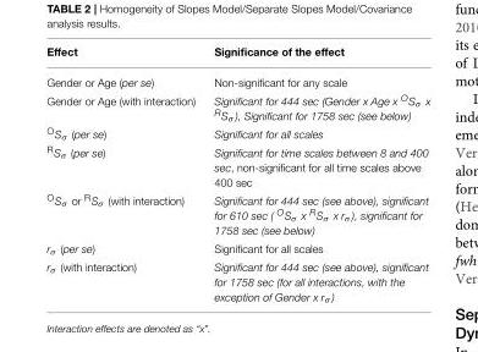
<table><thead><tr><td>Effect</td><td>Significance of the effect</td></tr></thead><tbody><tr><td>Gender or Age (per se)</td><td>Non-significant for any scale</td></tr><tr><td>Gender or Age (with interaction)</td><td>Significant for 444 sec (Gender x Age x OSσ x RSσ ), Significant for 1758 sec (see below)</td></tr><tr><td><sup>O</sup>S<sub>σ</sub> (per se)</td><td>Significant for all scales</td></tr><tr><td><sup>R</sup>S<sub>σ</sub> (per se)</td><td>Significant for time scales between 8 and 400 sec, non-significant for all time scales above 400 sec</td></tr><tr><td><sup>O</sup>S<sub>σ</sub> or <sup>R</sup>S<sub>σ</sub> (with interaction)</td><td>Significant for 444 sec (see above), significant for 610 sec ( OSσ x RSσ x rσ ), significant for 1758 sec (see below)</td></tr><tr><td>r<sub>σ</sub> (per se)</td><td>Significant for all scales</td></tr><tr><td>r<sub>σ</sub> (with interaction)</td><td>Significant for 444 sec (see above), significant for 1758 sec (for all interactions, with the exception of Gender x r<sub>σ</sub> )</td></tr></tbody></table>